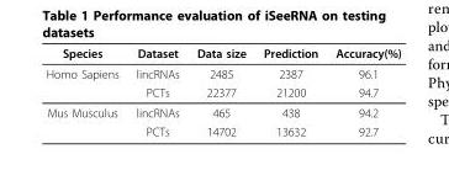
<table><thead><tr><td>Species</td><td>Dataset</td><td>Data size</td><td>Prediction</td><td>Accuracy(%)</td></tr></thead><tbody><tr><td rowspan="2">Homo Sapiens</td><td>lincRNAs</td><td>2485</td><td>2387</td><td>96.1</td></tr><tr><td>PCTs</td><td>22377</td><td>21200</td><td>94.7</td></tr><tr><td rowspan="2">Mus Musculus</td><td>lincRNAs</td><td>465</td><td>438</td><td>94.2</td></tr><tr><td>PCTs</td><td>14702</td><td>13632</td><td>92.7</td></tr></tbody></table>